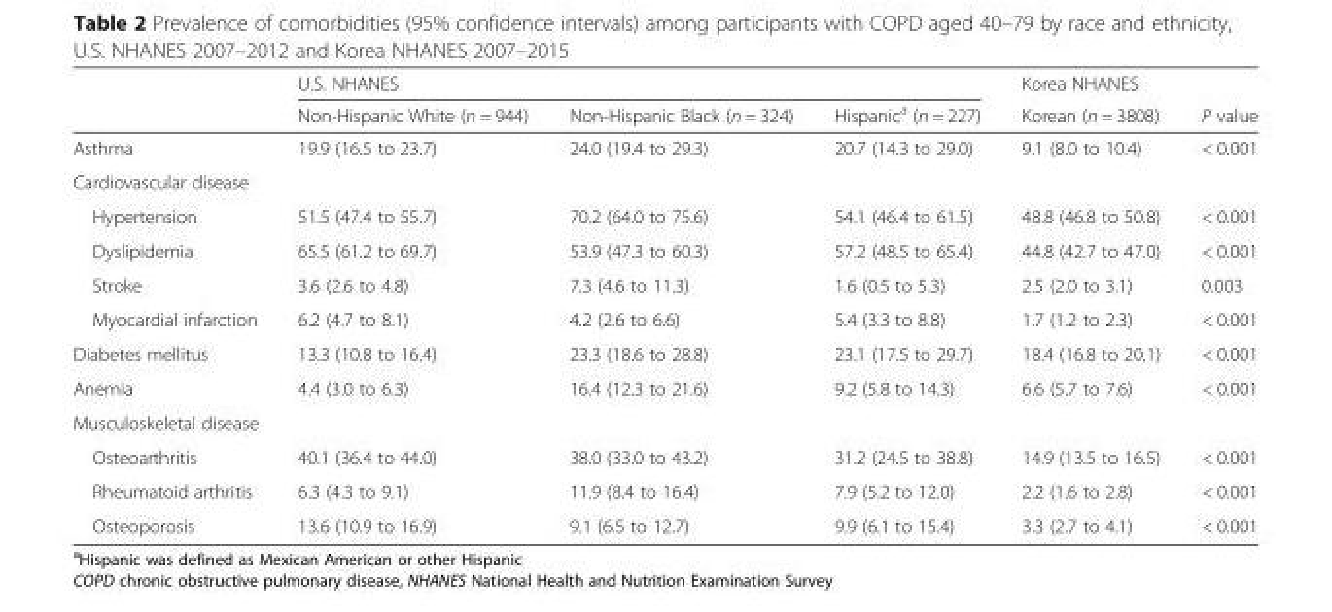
<table><thead><tr><td rowspan="2"></td><td colspan="3">U.S. NHANES</td><td rowspan="2">Korea NHANES Korean (n = 3808)</td><td rowspan="2">P value</td></tr><tr><td>Non-Hispanic White (n = 944)</td><td>Non-Hispanic Black (n = 324)</td><td>Hispanic<sup>a</sup> (n = 227)</td></tr></thead><tbody><tr><td>Asthma</td><td>19.9 (16.5 to 23.7)</td><td>24.0 (19.4 to 29.3)</td><td>20.7 (14.3 to 29.0)</td><td>9.1 (8.0 to 10.4)</td><td>&lt; 0.001</td></tr><tr><td colspan="6">Cardiovascular disease</td></tr><tr><td>Hypertension</td><td>51.5 (47.4 to 55.7)</td><td>70.2 (64.0 to 75.6)</td><td>54.1 (46.4 to 61.5)</td><td>48.8 (46.8 to 50.8)</td><td>&lt; 0.001</td></tr><tr><td>Dyslipidemia</td><td>65.5 (61.2 to 69.7)</td><td>53.9 (47.3 to 60.3)</td><td>57.2 (48.5 to 65.4)</td><td>44.8 (42.7 to 47.0)</td><td>&lt; 0.001</td></tr><tr><td>Stroke</td><td>3.6 (2.6 to 4.8)</td><td>7.3 (4.6 to 11.3)</td><td>1.6 (0.5 to 5.3)</td><td>2.5 (2.0 to 3.1)</td><td>0.003</td></tr><tr><td>Myocardial infarction</td><td>6.2 (4.7 to 8.1)</td><td>4.2 (2.6 to 6.6)</td><td>5.4 (3.3 to 8.8)</td><td>1.7 (1.2 to 2.3)</td><td>&lt; 0.001</td></tr><tr><td>Diabetes mellitus</td><td>13.3 (10.8 to 16.4)</td><td>23.3 (18.6 to 28.8)</td><td>23.1 (17.5 to 29.7)</td><td>18.4 (16.8 to 20.1)</td><td>&lt; 0.001</td></tr><tr><td>Anemia</td><td>4.4 (3.0 to 6.3)</td><td>16.4 (12.3 to 21.6)</td><td>9.2 (5.8 to 14.3)</td><td>6.6 (5.7 to 7.6)</td><td>&lt; 0.001</td></tr><tr><td colspan="6">Musculoskeletal disease</td></tr><tr><td>Osteoarthritis</td><td>40.1 (36.4 to 44.0)</td><td>38.0 (33.0 to 43.2)</td><td>31.2 (24.5 to 38.8)</td><td>14.9 (13.5 to 16.5)</td><td>&lt; 0.001</td></tr><tr><td>Rheumatoid arthritis</td><td>6.3 (4.3 to 9.1)</td><td>11.9 (8.4 to 16.4)</td><td>7.9 (5.2 to 12.0)</td><td>2.2 (1.6 to 2.8)</td><td>&lt; 0.001</td></tr><tr><td>Osteoporosis</td><td>13.6 (10.9 to 16.9)</td><td>9.1 (6.5 to 12.7)</td><td>9.9 (6.1 to 15.4)</td><td>3.3 (2.7 to 4.1)</td><td>&lt; 0.001</td></tr></tbody></table>